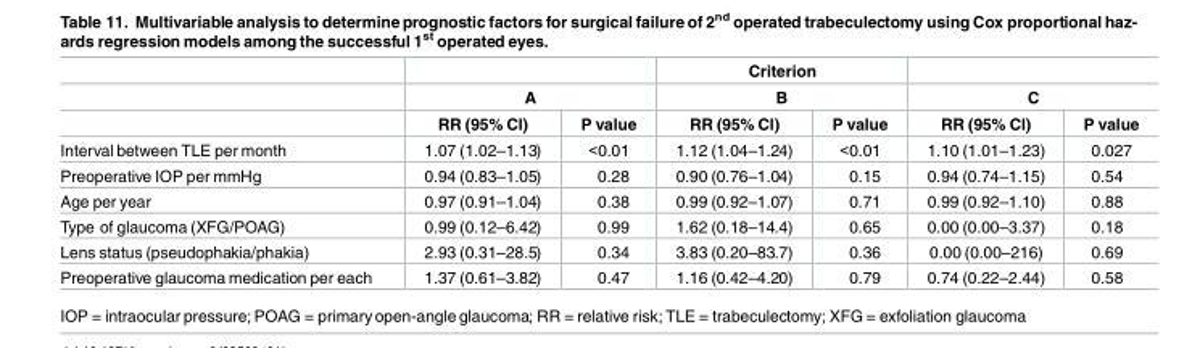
<table><thead><tr><td rowspan="3"></td><td></td><td></td><td rowspan="2" colspan="2">Criterion B</td><td></td><td></td></tr><tr><td colspan="2">A</td><td colspan="2">C</td></tr><tr><td>RR (95% Cl)</td><td>P value</td><td>RR (95% Cl)</td><td>P value</td><td>RR (95% Cl)</td><td>P value</td></tr></thead><tbody><tr><td>Interval between TLE per month</td><td>1.07 (1.02–1.13)</td><td>&lt;0.01</td><td>1.12 (1.04–1.24)</td><td>&lt;0.01</td><td>1.10 (1.01–1.23)</td><td>0.027</td></tr><tr><td>Preoperative IOP per mmHg</td><td>0.94 (0.83–1.05)</td><td>0.28</td><td>0.90 (0.76–1.04)</td><td>0.15</td><td>0.94 (0.74–1.15)</td><td>0.54</td></tr><tr><td>Age per year</td><td>0.97 (0.91–1.04)</td><td>0.38</td><td>0.99 (0.92–1.07)</td><td>0.71</td><td>0.99 (0.92–1.10)</td><td>0.88</td></tr><tr><td>Type of glaucoma (XFG/POAG)</td><td>0.99 (0.12–6.42)</td><td>0.99</td><td>1.62 (0.18–14.4)</td><td>0.65</td><td>0.00 (0.00–3.37)</td><td>0.18</td></tr><tr><td>Lens status (pseudophakia/phakia)</td><td>2.93 (0.31–28.5)</td><td>0.34</td><td>3.83 (0.20–83.7)</td><td>0.36</td><td>0.00 (0.00–216)</td><td>0.69</td></tr><tr><td>Preoperative glaucoma medication per each</td><td>1.37 (0.61–3.82)</td><td>0.47</td><td>1.16 (0.42–4.20)</td><td>0.79</td><td>0.74 (0.22–2.44)</td><td>0.58</td></tr></tbody></table>